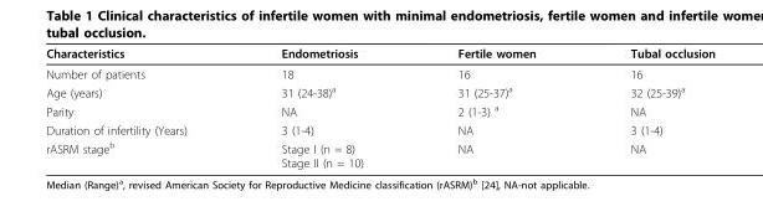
<table><thead><tr><td>Characteristics</td><td>Endometriosis</td><td>Fertile women</td><td>Tubal occlusion</td></tr></thead><tbody><tr><td>Number of patients</td><td>18</td><td>16</td><td>16</td></tr><tr><td>Age (years)</td><td>31 (24-38)<sup>a</sup></td><td>31 (25-37)<sup>a</sup></td><td>32 (25-39)<sup>a</sup></td></tr><tr><td>Parity</td><td>NA</td><td>2 (1-3) <sup>a</sup></td><td>NA</td></tr><tr><td>Duration of infertility (Years)</td><td>3 (1-4)</td><td>NA</td><td>3 (1-4)</td></tr><tr><td>rASRM stage<sup>b</sup></td><td>Stage I (n = 8) Stage II (n = 10)</td><td>NA</td><td>NA</td></tr></tbody></table>